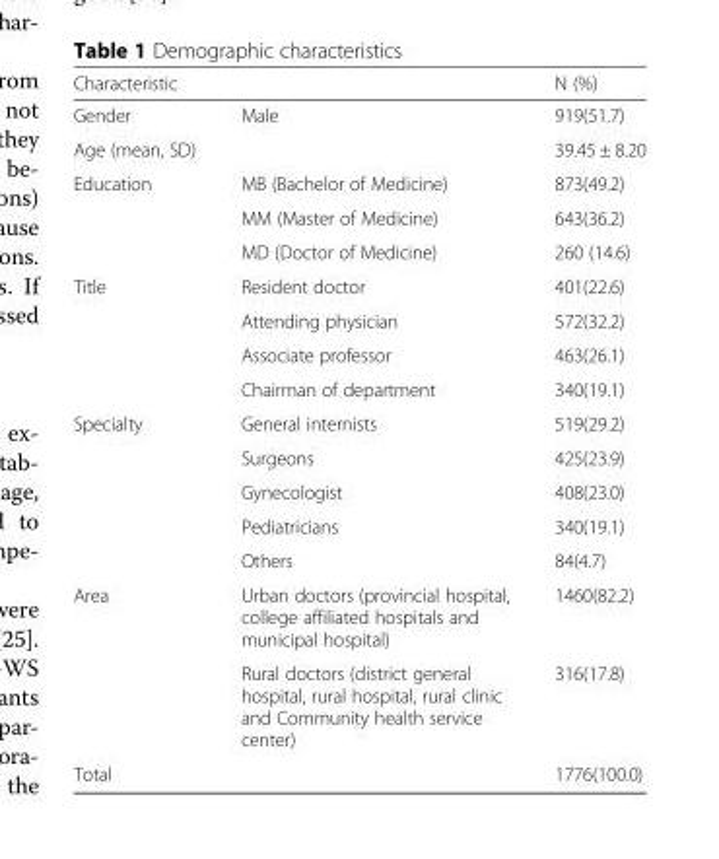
<table><thead><tr><td colspan="2">Characteristic</td><td rowspan="2">N (%) 919(51.7)</td></tr><tr><td>Gender</td><td>Male</td></tr></thead><tbody><tr><td>Age (mean, SD)</td><td></td><td>39.45 ± 8.20</td></tr><tr><td rowspan="3">Education</td><td>MB (Bachelor of Medicine)</td><td>873(49.2)</td></tr><tr><td>MM (Master of Medicine)</td><td>643(36.2)</td></tr><tr><td>MD (Doctor of Medicine)</td><td>260 (14.6)</td></tr><tr><td rowspan="4">Title</td><td>Resident doctor</td><td>401(22.6)</td></tr><tr><td>Attending physician</td><td>572(32.2)</td></tr><tr><td>Associate professor</td><td>463(26.1)</td></tr><tr><td>Chairman of department</td><td>340(19.1)</td></tr><tr><td rowspan="5">Specialty</td><td>General internists</td><td>519(29.2)</td></tr><tr><td>Surgeons</td><td>425(23.9)</td></tr><tr><td>Gynecologist</td><td>408(23.0)</td></tr><tr><td>Pediatricians</td><td>340(19.1)</td></tr><tr><td>Others</td><td>84(4.7)</td></tr><tr><td rowspan="2">Area</td><td>Urban doctors (provincial hospital, college affiliated hospitals and municipal hospital)</td><td>1460(82.2)</td></tr><tr><td>Rural doctors (district general hospital, rural hospital, rural clinic and Community health service center)</td><td>316(17.8)</td></tr><tr><td>Total</td><td></td><td>1776(100.0)</td></tr></tbody></table>